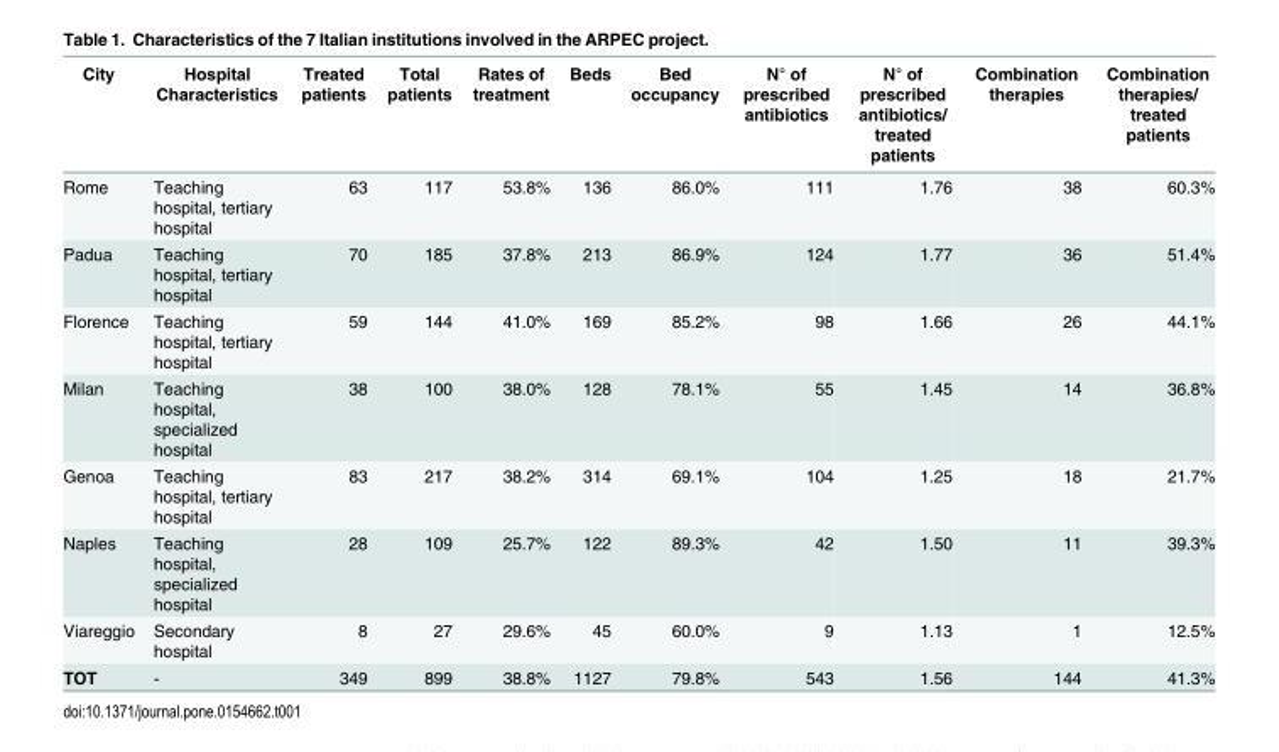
<table><thead><tr><td>City</td><td>Hospital Characteristics</td><td>Treated patients</td><td>Total patients</td><td>Rates of treatment</td><td>Beds</td><td>Bed occupancy</td><td>N° of prescribed antibiotics</td><td>N° of prescribed antibiotics/ treated patients</td><td>Combination therapies</td><td>Combination therapies/ treated patients</td></tr></thead><tbody><tr><td>Rome</td><td>Teaching hospital, tertiary hospital</td><td>63</td><td>117</td><td>53.8%</td><td>136</td><td>86.0%</td><td>111</td><td>1.76</td><td>38</td><td>60.3%</td></tr><tr><td>Padua</td><td>Teaching hospital, tertiary hospital</td><td>70</td><td>185</td><td>37.8%</td><td>213</td><td>86.9%</td><td>124</td><td>1.77</td><td>36</td><td>51.4%</td></tr><tr><td>Florence</td><td>Teaching hospital, tertiary hospital</td><td>59</td><td>144</td><td>41.0%</td><td>169</td><td>85.2%</td><td>98</td><td>1.66</td><td>26</td><td>44.1%</td></tr><tr><td>Milan</td><td>Teaching hospital, specialized hospital</td><td>38</td><td>100</td><td>38.0%</td><td>128</td><td>78.1%</td><td>55</td><td>1.45</td><td>14</td><td>36.8%</td></tr><tr><td>Genoa</td><td>Teaching hospital, tertiary hospital</td><td>83</td><td>217</td><td>38.2%</td><td>314</td><td>69.1%</td><td>104</td><td>1.25</td><td>18</td><td>21.7%</td></tr><tr><td>Naples</td><td>Teaching hospital, specialized hospital</td><td>28</td><td>109</td><td>25.7%</td><td>122</td><td>89.3%</td><td>42</td><td>1.50</td><td>11</td><td>39.3%</td></tr><tr><td>Viareggio</td><td>Secondary hospital</td><td>8</td><td>27</td><td>29.6%</td><td>45</td><td>60.0%</td><td>9</td><td>1.13</td><td>1</td><td>12.5%</td></tr><tr><td>TOT</td><td>-</td><td>349</td><td>899</td><td>38.8%</td><td>1127</td><td>79.8%</td><td>543</td><td>1.56</td><td>144</td><td>41.3%</td></tr></tbody></table>